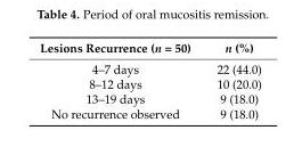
<table><thead><tr><td>Lesions Recurrence (n = 50)</td><td>n (%)</td></tr></thead><tbody><tr><td>4–7 days</td><td>22 (44.0)</td></tr><tr><td>8–12 days</td><td>10 (20.0)</td></tr><tr><td>13–19 days</td><td>9 (18.0)</td></tr><tr><td>No recurrence observed</td><td>9 (18.0)</td></tr></tbody></table>